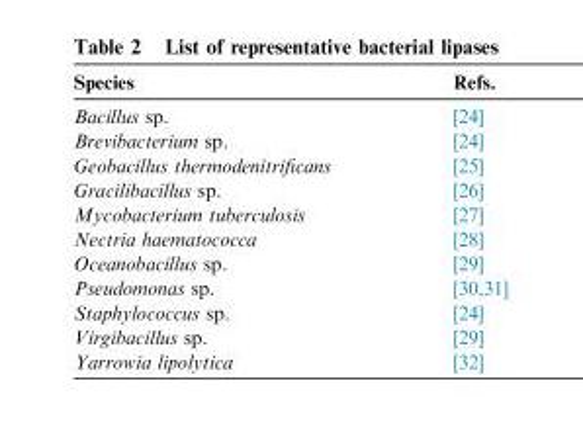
<table><thead><tr><td>Species</td><td>Refs.</td></tr></thead><tbody><tr><td>Bacillus sp.</td><td>[24]</td></tr><tr><td>Brevibacterium sp.</td><td>[24]</td></tr><tr><td>Geobacillus thermodenitrificans</td><td>[25]</td></tr><tr><td>Gracilibacillus sp.</td><td>[26]</td></tr><tr><td>Mycobacterium tuberculosis</td><td>[27]</td></tr><tr><td>Nectria haematococca</td><td>[28]</td></tr><tr><td>Oceanobacillus sp.</td><td>[29]</td></tr><tr><td>Pseudomonas sp.</td><td>[30,31]</td></tr><tr><td>Staphylococcus sp.</td><td>[24]</td></tr><tr><td>Virgibacillus sp.</td><td>[29]</td></tr><tr><td>Yarrowia lipolytica</td><td>[32]</td></tr></tbody></table>